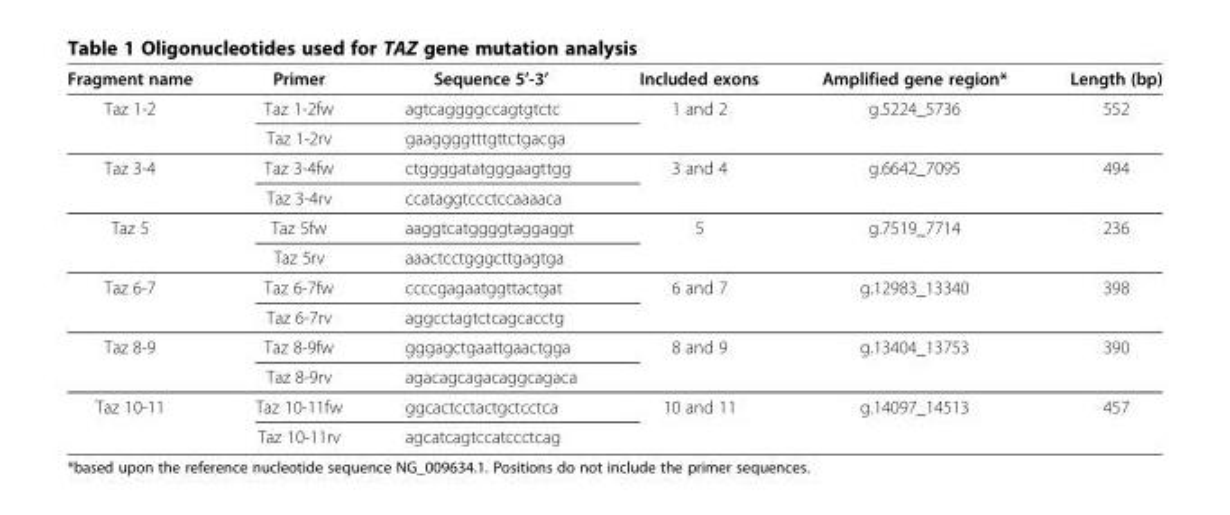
<table><thead><tr><td>Fragment name</td><td>Primer</td><td>Sequence 5’-3’</td><td>Included exons</td><td>Amplified gene region*</td><td>Length (bp)</td></tr></thead><tbody><tr><td rowspan="2">Taz 1-2</td><td>Taz 1-2fw</td><td>agtcaggggccagtgtctc</td><td rowspan="2">1 and 2</td><td rowspan="2">g.5224_5736</td><td rowspan="2">552</td></tr><tr><td>Taz 1-2rv</td><td>gaaggggtttgttctgacga</td></tr><tr><td rowspan="2">Taz 3-4</td><td>Taz 3-4fw</td><td>ctggggatatgggaagttgg</td><td rowspan="2">3 and 4</td><td rowspan="2">g.6642_7095</td><td rowspan="2">494</td></tr><tr><td>Taz 3-4rv</td><td>ccataggtccctccaaaaca</td></tr><tr><td rowspan="2">Taz 5</td><td>Taz 5fw</td><td>aaggtcatggggtaggaggt</td><td rowspan="2">5</td><td rowspan="2">g.7519_7714</td><td rowspan="2">236</td></tr><tr><td>Taz 5rv</td><td>aaactcctgggcttgagtga</td></tr><tr><td rowspan="2">Taz 6-7</td><td>Taz 6-7fw</td><td>ccccgagaatggttactgat</td><td rowspan="2">6 and 7</td><td rowspan="2">g.12983_13340</td><td rowspan="2">398</td></tr><tr><td>Taz 6-7rv</td><td>aggcctagtctcagcacctg</td></tr><tr><td rowspan="2">Taz 8-9</td><td>Taz 8-9fw</td><td>gggagctgaattgaactgga</td><td rowspan="2">8 and 9</td><td rowspan="2">g.13404_13753</td><td rowspan="2">390</td></tr><tr><td>Taz 8-9rv</td><td>agacagcagacaggcagaca</td></tr><tr><td rowspan="2">Taz 10-11</td><td>Taz 10-11fw</td><td>ggcactcctactgctcctca</td><td rowspan="2">10 and 11</td><td rowspan="2">g.14097_14513</td><td rowspan="2">457</td></tr><tr><td>Taz 10-11rv</td><td>agcatcagtccatccctcag</td></tr></tbody></table>